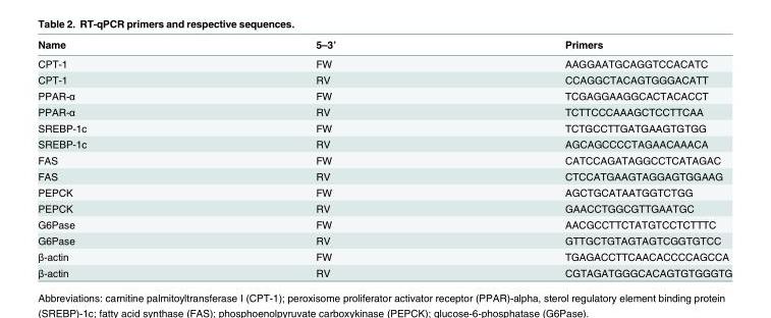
<table><thead><tr><td>Name</td><td>5–3’</td><td>Primers</td></tr></thead><tbody><tr><td>CPT-1</td><td>FW</td><td>AAGGAATGCAGGTCCACATC</td></tr><tr><td>CPT-1</td><td>RV</td><td>CCAGGCTACAGTGGGACATT</td></tr><tr><td>PPAR-α</td><td>FW</td><td>TCGAGGAAGGCACTACACCT</td></tr><tr><td>PPAR-α</td><td>RV</td><td>TCTTCCCAAAGCTCCTTCAA</td></tr><tr><td>SREBP-1c</td><td>FW</td><td>TCTGCCTTGATGAAGTGTGG</td></tr><tr><td>SREBP-1c</td><td>RV</td><td>AGCAGCCCCTAGAACAAACA</td></tr><tr><td>FAS</td><td>FW</td><td>CATCCAGATAGGCCTCATAGAC</td></tr><tr><td>FAS</td><td>RV</td><td>CTCCATGAAGTAGGAGTGGAAG</td></tr><tr><td>PEPCK</td><td>FW</td><td>AGCTGCATAATGGTCTGG</td></tr><tr><td>PEPCK</td><td>RV</td><td>GAACCTGGCGTTGAATGC</td></tr><tr><td>G6Pase</td><td>FW</td><td>AACGCCTTCTATGTCCTCTTTC</td></tr><tr><td>G6Pase</td><td>RV</td><td>GTTGCTGTAGTAGTCGGTGTCC</td></tr><tr><td>β-actin</td><td>FW</td><td>TGAGACCTTCAACACCCCAGCCA</td></tr><tr><td>β-actin</td><td>RV</td><td>CGTAGATGGGCACAGTGTGGGTG</td></tr></tbody></table>